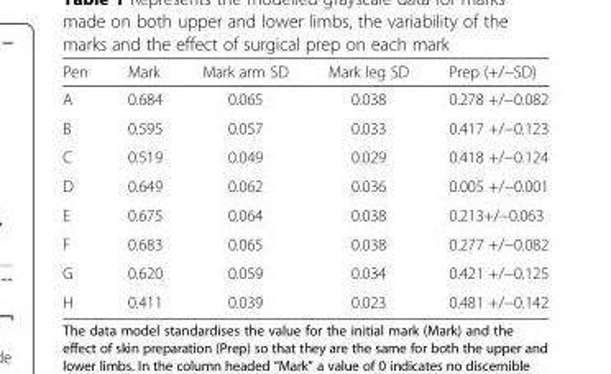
<table><thead><tr><td>Pen</td><td>Mark</td><td>Mark arm SD</td><td>Mark leg SD</td><td>Prep (+/−SD)</td></tr></thead><tbody><tr><td>A</td><td>0.684</td><td>0.065</td><td>0.038</td><td>0.278 +/−0.082</td></tr><tr><td>B</td><td>0.595</td><td>0.057</td><td>0.033</td><td>0.417 +/−0.123</td></tr><tr><td>C</td><td>0.519</td><td>0.049</td><td>0.029</td><td>0.418 +/−0.124</td></tr><tr><td>D</td><td>0.649</td><td>0.062</td><td>0.036</td><td>0.005 +/−0.001</td></tr><tr><td>E</td><td>0.675</td><td>0.064</td><td>0.038</td><td>0.213+/−0.063</td></tr><tr><td>F</td><td>0.683</td><td>0.065</td><td>0.038</td><td>0.277 +/−0.082</td></tr><tr><td>G</td><td>0.620</td><td>0.059</td><td>0.034</td><td>0.421 +/−0.125</td></tr><tr><td>H</td><td>0.411</td><td>0.039</td><td>0.023</td><td>0.481 +/−0.142</td></tr></tbody></table>